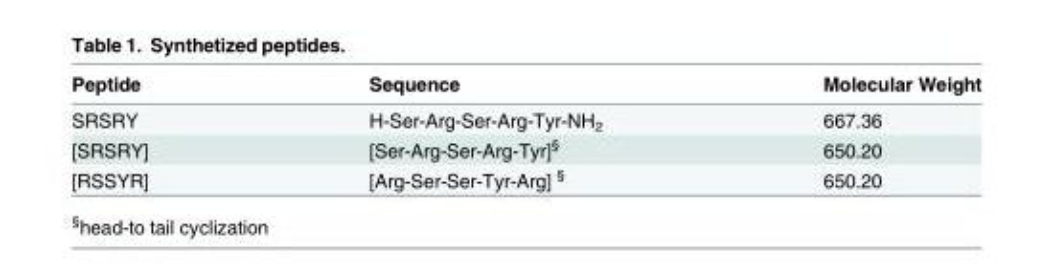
<table><thead><tr><td>Peptide</td><td>Sequence</td><td>Molecular Weight</td></tr></thead><tbody><tr><td>SRSRY</td><td>H-Ser-Arg-Ser-Arg-Tyr-NH<sub>2</sub></td><td>667.36</td></tr><tr><td>[SRSRY]</td><td>[Ser-Arg-Ser-Arg-Tyr]<sup>§</sup></td><td>650.20</td></tr><tr><td>[RSSYR]</td><td>[Arg-Ser-Ser-Tyr-Arg] <sup>§</sup></td><td>650.20</td></tr></tbody></table>